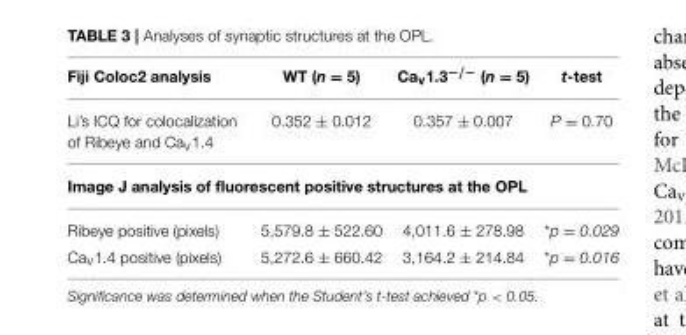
<table><thead><tr><td>Fiji Coloc2 analysis</td><td>WT (n = 5)</td><td>Ca<sub>v</sub>1.3<sup>−/−</sup> (n = 5)</td><td>t-test</td></tr></thead><tbody><tr><td>Li’s ICQ for colocalization of Ribeye and Ca<sub>v</sub>1.4</td><td>0.352 ± 0.012</td><td>0.357 ± 0.007</td><td>P = 0.70</td></tr><tr><td colspan="4">Image J analysis of fluorescent positive structures at the OPL</td></tr><tr><td>Ribeye positive (pixels)</td><td>5,579.8 ± 522.60</td><td>4,011.6 ± 278.98</td><td>*p = 0.029</td></tr><tr><td>Ca<sub>v</sub>1.4 positive (pixels)</td><td>5,272.6 ± 660.42</td><td>3,164.2 ± 214.84</td><td>*p = 0.016</td></tr></tbody></table>